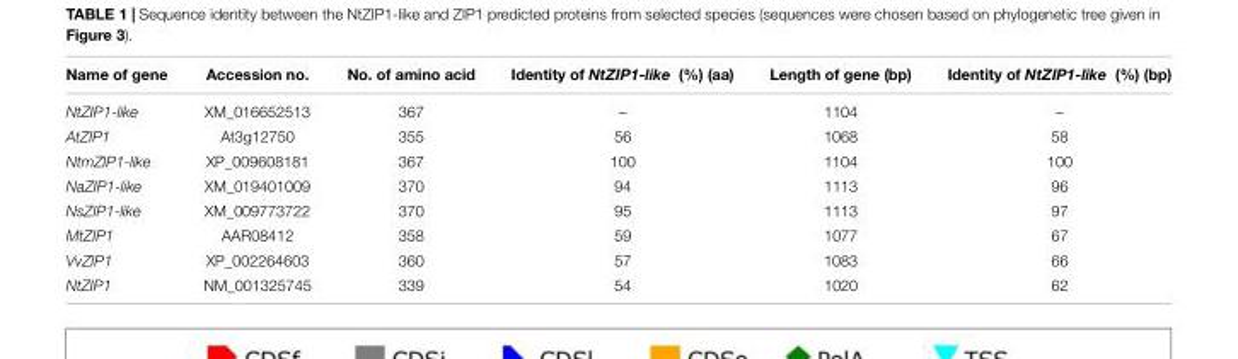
<table><thead><tr><td>Name of gene</td><td>Accession no.</td><td>No. of amino acid</td><td>Identity of NtZIP1-like (%) (aa)</td><td>Length of gene (bp)</td><td>Identity of NtZIP1-like (%) (bp)</td></tr></thead><tbody><tr><td>NtZIP1-like</td><td>XM_016652513</td><td>367</td><td>–</td><td>1104</td><td>–</td></tr><tr><td>AtZIP1</td><td>At3g12750</td><td>355</td><td>56</td><td>1068</td><td>58</td></tr><tr><td>NtmZIP1-like</td><td>XP_009608181</td><td>367</td><td>100</td><td>1104</td><td>100</td></tr><tr><td>NaZIP1-like</td><td>XM_019401009</td><td>370</td><td>94</td><td>1113</td><td>96</td></tr><tr><td>NsZIP1-like</td><td>XM_009773722</td><td>370</td><td>95</td><td>1113</td><td>97</td></tr><tr><td>MtZIP1</td><td>AAR08412</td><td>358</td><td>59</td><td>1077</td><td>67</td></tr><tr><td>VvZIP1</td><td>XP_002264603</td><td>360</td><td>57</td><td>1083</td><td>66</td></tr><tr><td>NtZIP1</td><td>NM_001325745</td><td>339</td><td>54</td><td>1020</td><td>62</td></tr></tbody></table>